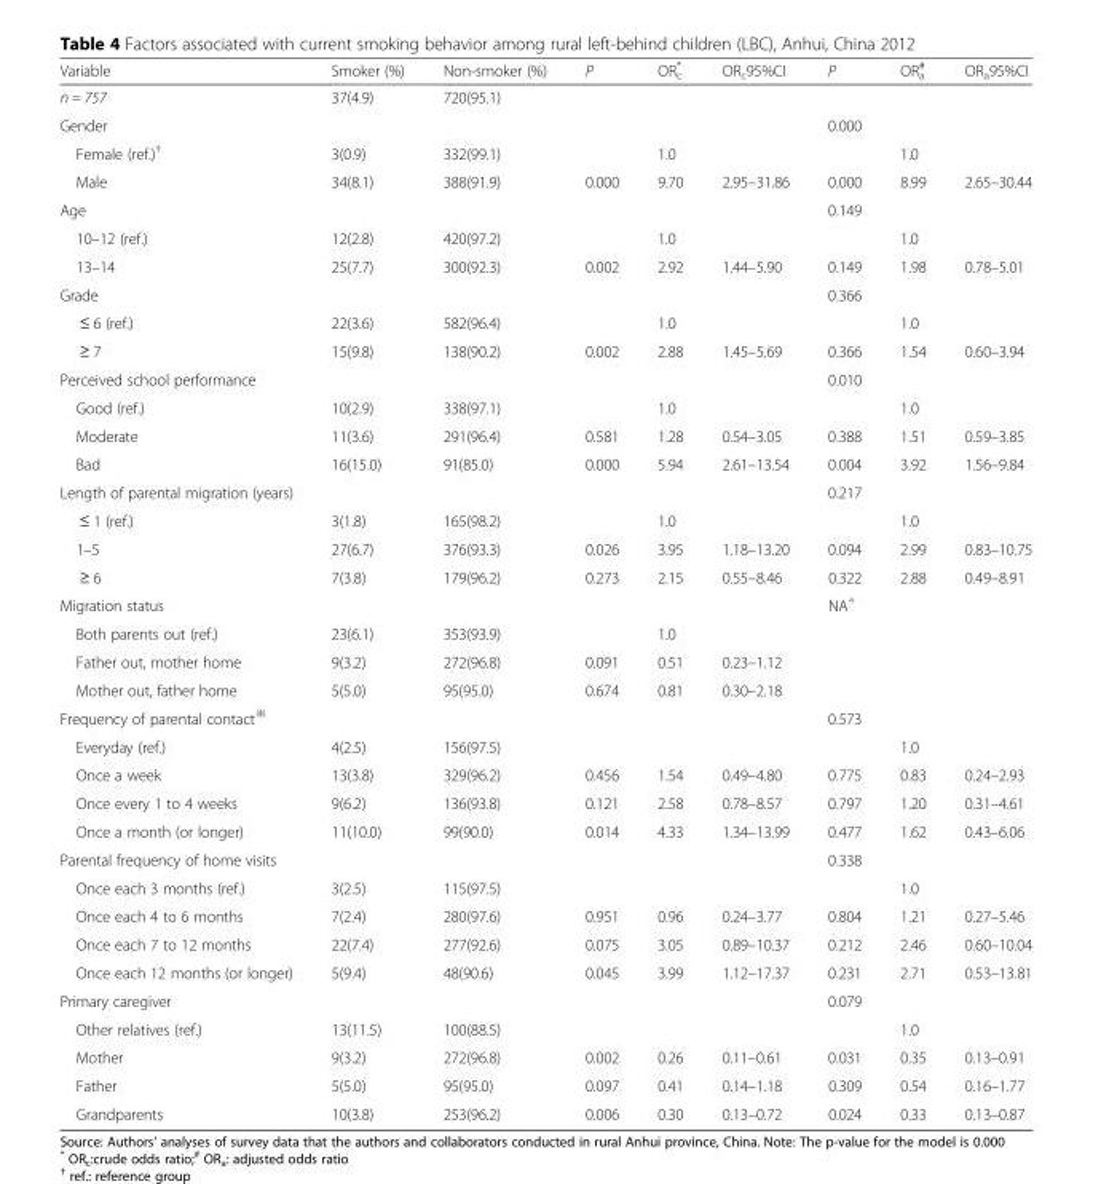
<table><thead><tr><td>Variable</td><td>Smoker (%)</td><td>Non-smoker (%)</td><td>P</td><td>OR<sub>c</sub> *</td><td>OR<sub>c</sub>95%CI</td><td>P</td><td>OR<sub>a</sub> <sup>#</sup></td><td>OR<sub>a</sub>95%CI</td></tr></thead><tbody><tr><td>n = 757</td><td>37(4.9)</td><td>720(95.1)</td><td></td><td></td><td></td><td></td><td></td><td></td></tr><tr><td colspan="6">Gender</td><td>0.000</td><td></td><td></td></tr><tr><td>Female (ref.)<sup>†</sup></td><td>3(0.9)</td><td>332(99.1)</td><td></td><td>1.0</td><td></td><td></td><td>1.0</td><td></td></tr><tr><td>Male</td><td>34(8.1)</td><td>388(91.9)</td><td>0.000</td><td>9.70</td><td>2.95–31.86</td><td>0.000</td><td>8.99</td><td>2.65–30.44</td></tr><tr><td colspan="6">Age</td><td>0.149</td><td></td><td></td></tr><tr><td>10–12 (ref.)</td><td>12(2.8)</td><td>420(97.2)</td><td></td><td>1.0</td><td></td><td></td><td>1.0</td><td></td></tr><tr><td>13–14</td><td>25(7.7)</td><td>300(92.3)</td><td>0.002</td><td>2.92</td><td>1.44–5.90</td><td>0.149</td><td>1.98</td><td>0.78–5.01</td></tr><tr><td colspan="6">Grade</td><td>0.366</td><td></td><td></td></tr><tr><td>≤ 6 (ref.)</td><td>22(3.6)</td><td>582(96.4)</td><td></td><td>1.0</td><td></td><td></td><td>1.0</td><td></td></tr><tr><td>≥ 7</td><td>15(9.8)</td><td>138(90.2)</td><td>0.002</td><td>2.88</td><td>1.45–5.69</td><td>0.366</td><td>1.54</td><td>0.60–3.94</td></tr><tr><td colspan="6">Perceived school performance</td><td>0.010</td><td></td><td></td></tr><tr><td>Good (ref.)</td><td>10(2.9)</td><td>338(97.1)</td><td></td><td>1.0</td><td></td><td></td><td>1.0</td><td></td></tr><tr><td>Moderate</td><td>11(3.6)</td><td>291(96.4)</td><td>0.581</td><td>1.28</td><td>0.54–3.05</td><td>0.388</td><td>1.51</td><td>0.59–3.85</td></tr><tr><td>Bad</td><td>16(15.0)</td><td>91(85.0)</td><td>0.000</td><td>5.94</td><td>2.61–13.54</td><td>0.004</td><td>3.92</td><td>1.56–9.84</td></tr><tr><td colspan="6">Length of parental migration (years)</td><td>0.217</td><td></td><td></td></tr><tr><td>≤ 1 (ref.)</td><td>3(1.8)</td><td>165(98.2)</td><td></td><td>1.0</td><td></td><td></td><td>1.0</td><td></td></tr><tr><td>1–5</td><td>27(6.7)</td><td>376(93.3)</td><td>0.026</td><td>3.95</td><td>1.18–13.20</td><td>0.094</td><td>2.99</td><td>0.83–10.75</td></tr><tr><td>≥ 6</td><td>7(3.8)</td><td>179(96.2)</td><td>0.273</td><td>2.15</td><td>0.55–8.46</td><td>0.322</td><td>2.88</td><td>0.49–8.91</td></tr><tr><td colspan="6">Migration status</td><td>NA<sup>△</sup></td><td></td><td></td></tr><tr><td>Both parents out (ref.)</td><td>23(6.1)</td><td>353(93.9)</td><td></td><td>1.0</td><td></td><td></td><td></td><td></td></tr><tr><td>Father out, mother home</td><td>9(3.2)</td><td>272(96.8)</td><td>0.091</td><td>0.51</td><td>0.23–1.12</td><td></td><td></td><td></td></tr><tr><td>Mother out, father home</td><td>5(5.0)</td><td>95(95.0)</td><td>0.674</td><td>0.81</td><td>0.30–2.18</td><td></td><td></td><td></td></tr><tr><td colspan="6">Frequency of parental contact<sup>※</sup></td><td>0.573</td><td></td><td></td></tr><tr><td>Everyday (ref.)</td><td>4(2.5)</td><td>156(97.5)</td><td></td><td></td><td></td><td></td><td>1.0</td><td></td></tr><tr><td>Once a week</td><td>13(3.8)</td><td>329(96.2)</td><td>0.456</td><td>1.54</td><td>0.49–4.80</td><td>0.775</td><td>0.83</td><td>0.24–2.93</td></tr><tr><td>Once every 1 to 4 weeks</td><td>9(6.2)</td><td>136(93.8)</td><td>0.121</td><td>2.58</td><td>0.78–8.57</td><td>0.797</td><td>1.20</td><td>0.31–4.61</td></tr><tr><td>Once a month (or longer)</td><td>11(10.0)</td><td>99(90.0)</td><td>0.014</td><td>4.33</td><td>1.34–13.99</td><td>0.477</td><td>1.62</td><td>0.43–6.06</td></tr><tr><td colspan="6">Parental frequency of home visits</td><td>0.338</td><td></td><td></td></tr><tr><td>Once each 3 months (ref.)</td><td>3(2.5)</td><td>115(97.5)</td><td></td><td></td><td></td><td></td><td>1.0</td><td></td></tr><tr><td>Once each 4 to 6 months</td><td>7(2.4)</td><td>280(97.6)</td><td>0.951</td><td>0.96</td><td>0.24–3.77</td><td>0.804</td><td>1.21</td><td>0.27–5.46</td></tr><tr><td>Once each 7 to 12 months</td><td>22(7.4)</td><td>277(92.6)</td><td>0.075</td><td>3.05</td><td>0.89–10.37</td><td>0.212</td><td>2.46</td><td>0.60–10.04</td></tr><tr><td>Once each 12 months (or longer)</td><td>5(9.4)</td><td>48(90.6)</td><td>0.045</td><td>3.99</td><td>1.12–17.37</td><td>0.231</td><td>2.71</td><td>0.53–13.81</td></tr><tr><td colspan="6">Primary caregiver</td><td>0.079</td><td></td><td></td></tr><tr><td>Other relatives (ref.)</td><td>13(11.5)</td><td>100(88.5)</td><td></td><td></td><td></td><td></td><td>1.0</td><td></td></tr><tr><td>Mother</td><td>9(3.2)</td><td>272(96.8)</td><td>0.002</td><td>0.26</td><td>0.11–0.61</td><td>0.031</td><td>0.35</td><td>0.13–0.91</td></tr><tr><td>Father</td><td>5(5.0)</td><td>95(95.0)</td><td>0.097</td><td>0.41</td><td>0.14–1.18</td><td>0.309</td><td>0.54</td><td>0.16–1.77</td></tr><tr><td>Grandparents</td><td>10(3.8)</td><td>253(96.2)</td><td>0.006</td><td>0.30</td><td>0.13–0.72</td><td>0.024</td><td>0.33</td><td>0.13–0.87</td></tr></tbody></table>